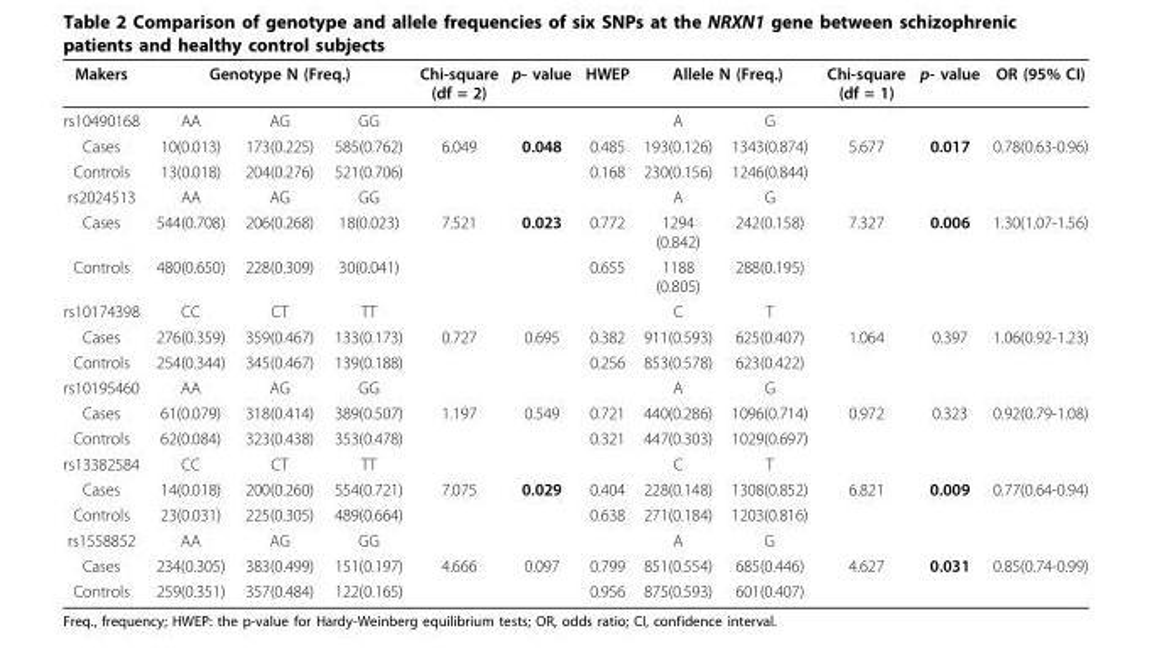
<table><thead><tr><td rowspan="2">Makers rs10490168</td><td colspan="3">Genotype N (Freq.)</td><td rowspan="2">Chi-square (df = 2)</td><td rowspan="2">p- value</td><td rowspan="2">HWEP</td><td colspan="2">Allele N (Freq.)</td><td rowspan="2">Chi-square (df = 1)</td><td rowspan="2">p- value</td><td rowspan="2">OR (95% CI)</td></tr><tr><td>AA</td><td>AG</td><td>GG</td><td>A</td><td>G</td></tr></thead><tbody><tr><td>Cases</td><td>10(0.013)</td><td>173(0.225)</td><td>585(0.762)</td><td>6.049</td><td>0.048</td><td>0.485</td><td>193(0.126)</td><td>1343(0.874)</td><td>5.677</td><td>0.017</td><td>0.78(0.63-0.96)</td></tr><tr><td>Controls</td><td>13(0.018)</td><td>204(0.276)</td><td>521(0.706)</td><td></td><td></td><td>0.168</td><td>230(0.156)</td><td>1246(0.844)</td><td></td><td></td><td></td></tr><tr><td>rs2024513</td><td>AA</td><td>AG</td><td>GG</td><td></td><td></td><td></td><td>A</td><td>G</td><td></td><td></td><td></td></tr><tr><td>Cases</td><td>544(0.708)</td><td>206(0.268)</td><td>18(0.023)</td><td>7.521</td><td>0.023</td><td>0.772</td><td>1294 (0.842)</td><td>242(0.158)</td><td>7.327</td><td>0.006</td><td>1.30(1.07-1.56)</td></tr><tr><td>Controls</td><td>480(0.650)</td><td>228(0.309)</td><td>30(0.041)</td><td></td><td></td><td>0.655</td><td>1188 (0.805)</td><td>288(0.195)</td><td></td><td></td><td></td></tr><tr><td>rs10174398</td><td>CC</td><td>CT</td><td>TT</td><td></td><td></td><td></td><td>C</td><td>T</td><td></td><td></td><td></td></tr><tr><td>Cases</td><td>276(0.359)</td><td>359(0.467)</td><td>133(0.173)</td><td>0.727</td><td>0.695</td><td>0.382</td><td>911(0.593)</td><td>625(0.407)</td><td>1.064</td><td>0.397</td><td>1.06(0.92-1.23)</td></tr><tr><td>Controls</td><td>254(0.344)</td><td>345(0.467)</td><td>139(0.188)</td><td></td><td></td><td>0.256</td><td>853(0.578)</td><td>623(0.422)</td><td></td><td></td><td></td></tr><tr><td>rs10195460</td><td>AA</td><td>AG</td><td>GG</td><td></td><td></td><td></td><td>A</td><td>G</td><td></td><td></td><td></td></tr><tr><td>Cases</td><td>61(0.079)</td><td>318(0.414)</td><td>389(0.507)</td><td>1.197</td><td>0.549</td><td>0.721</td><td>440(0.286)</td><td>1096(0.714)</td><td>0.972</td><td>0.323</td><td>0.92(0.79-1.08)</td></tr><tr><td>Controls</td><td>62(0.084)</td><td>323(0.438)</td><td>353(0.478)</td><td></td><td></td><td>0.321</td><td>447(0.303)</td><td>1029(0.697)</td><td></td><td></td><td></td></tr><tr><td>rs13382584</td><td>CC</td><td>CT</td><td>TT</td><td></td><td></td><td></td><td>C</td><td>T</td><td></td><td></td><td></td></tr><tr><td>Cases</td><td>14(0.018)</td><td>200(0.260)</td><td>554(0.721)</td><td>7.075</td><td>0.029</td><td>0.404</td><td>228(0.148)</td><td>1308(0.852)</td><td>6.821</td><td>0.009</td><td>0.77(0.64-0.94)</td></tr><tr><td>Controls</td><td>23(0.031)</td><td>225(0.305)</td><td>489(0.664)</td><td></td><td></td><td>0.638</td><td>271(0.184)</td><td>1203(0.816)</td><td></td><td></td><td></td></tr><tr><td>rs1558852</td><td>AA</td><td>AG</td><td>GG</td><td></td><td></td><td></td><td>A</td><td>G</td><td></td><td></td><td></td></tr><tr><td>Cases</td><td>234(0.305)</td><td>383(0.499)</td><td>151(0.197)</td><td>4.666</td><td>0.097</td><td>0.799</td><td>851(0.554)</td><td>685(0.446)</td><td>4.627</td><td>0.031</td><td>0.85(0.74-0.99)</td></tr><tr><td>Controls</td><td>259(0.351)</td><td>357(0.484)</td><td>122(0.165)</td><td></td><td></td><td>0.956</td><td>875(0.593)</td><td>601(0.407)</td><td></td><td></td><td></td></tr></tbody></table>